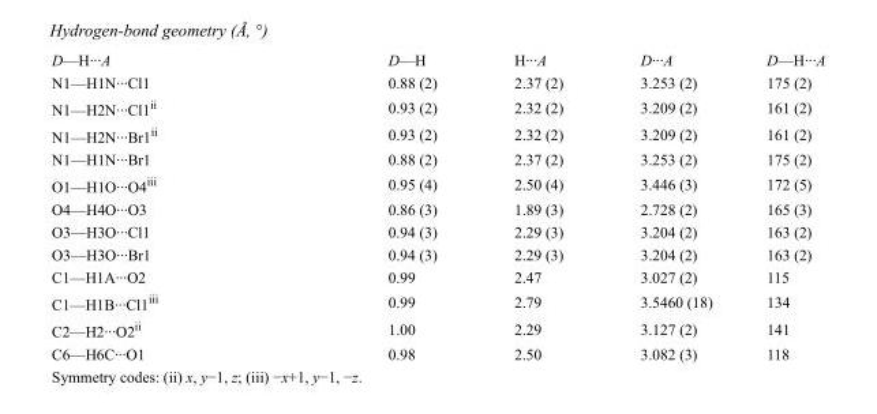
<table><tbody><tr><td>D—H···A</td><td>D—H</td><td>H···A</td><td>D···A</td><td>D—H···A</td></tr><tr><td>N1—H1N···Cl1</td><td>0.88 (2)</td><td>2.37 (2)</td><td>3.253 (2)</td><td>175 (2)</td></tr><tr><td>N1—H2N···Cl1<sup>ii</sup></td><td>0.93 (2)</td><td>2.32 (2)</td><td>3.209 (2)</td><td>161 (2)</td></tr><tr><td>N1—H2N···Br1<sup>ii</sup></td><td>0.93 (2)</td><td>2.32 (2)</td><td>3.209 (2)</td><td>161 (2)</td></tr><tr><td>N1—H1N···Br1</td><td>0.88 (2)</td><td>2.37 (2)</td><td>3.253 (2)</td><td>175 (2)</td></tr><tr><td>O1—H1O···O4<sup>iii</sup></td><td>0.95 (4)</td><td>2.50 (4)</td><td>3.446 (3)</td><td>172 (5)</td></tr><tr><td>O4—H4O···O3</td><td>0.86 (3)</td><td>1.89 (3)</td><td>2.728 (2)</td><td>165 (3)</td></tr><tr><td>O3—H3O···Cl1</td><td>0.94 (3)</td><td>2.29 (3)</td><td>3.204 (2)</td><td>163 (2)</td></tr><tr><td>O3—H3O···Br1</td><td>0.94 (3)</td><td>2.29 (3)</td><td>3.204 (2)</td><td>163 (2)</td></tr><tr><td>C1—H1A···O2</td><td>0.99</td><td>2.47</td><td>3.027 (2)</td><td>115</td></tr><tr><td>C1—H1B···Cl1<sup>iii</sup></td><td>0.99</td><td>2.79</td><td>3.5460 (18)</td><td>134</td></tr><tr><td>C2—H2···O2<sup>ii</sup></td><td>1.00</td><td>2.29</td><td>3.127 (2)</td><td>141</td></tr><tr><td>C6—H6C···O1</td><td>0.98</td><td>2.50</td><td>3.082 (3)</td><td>118</td></tr></tbody></table>